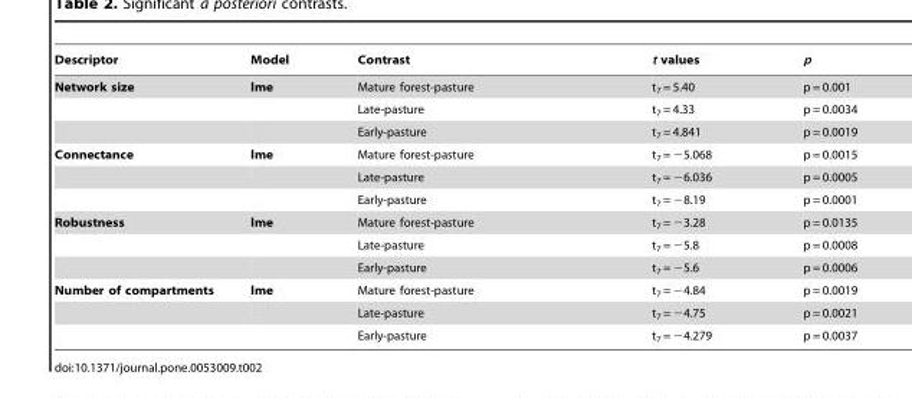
<table><thead><tr><td>Descriptor</td><td>Model</td><td>Contrast</td><td>t values</td><td>p</td></tr></thead><tbody><tr><td rowspan="3">Network size</td><td>lme</td><td>Mature forest-pasture</td><td>t<sub>7</sub> = 5.40</td><td>p = 0.001</td></tr><tr><td></td><td>Late-pasture</td><td>t<sub>7</sub> = 4.33</td><td>p = 0.0034</td></tr><tr><td></td><td>Early-pasture</td><td>t<sub>7</sub> = 4.841</td><td>p = 0.0019</td></tr><tr><td rowspan="3">Connectance</td><td>lme</td><td>Mature forest-pasture</td><td>t<sub>7</sub> = −5.068</td><td>p = 0.0015</td></tr><tr><td></td><td>Late-pasture</td><td>t<sub>7</sub> = −6.036</td><td>p = 0.0005</td></tr><tr><td></td><td>Early-pasture</td><td>t<sub>7</sub> = −8.19</td><td>p = 0.0001</td></tr><tr><td rowspan="3">Robustness</td><td>lme</td><td>Mature forest-pasture</td><td>t<sub>7</sub> = −3.28</td><td>p = 0.0135</td></tr><tr><td></td><td>Late-pasture</td><td>t<sub>7</sub> = −5.8</td><td>p = 0.0008</td></tr><tr><td></td><td>Early-pasture</td><td>t<sub>7</sub> = −5.6</td><td>p = 0.0006</td></tr><tr><td rowspan="3">Number of compartments</td><td>lme</td><td>Mature forest-pasture</td><td>t<sub>7</sub> = −4.84</td><td>p = 0.0019</td></tr><tr><td></td><td>Late-pasture</td><td>t<sub>7</sub> = −4.75</td><td>p = 0.0021</td></tr><tr><td></td><td>Early-pasture</td><td>t<sub>7</sub> = −4.279</td><td>p = 0.0037</td></tr></tbody></table>